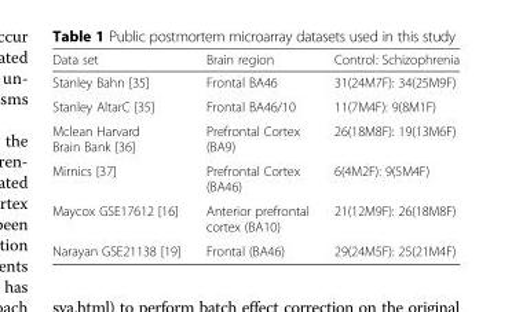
<table><thead><tr><td>Data set</td><td>Brain region</td><td>Control: Schizophrenia</td></tr></thead><tbody><tr><td>Stanley Bahn [35]</td><td>Frontal BA46</td><td>31(24M7F): 34(25M9F)</td></tr><tr><td>Stanley AltarC [35]</td><td>Frontal BA46/10</td><td>11(7M4F): 9(8M1F)</td></tr><tr><td>Mclean Harvard Brain Bank [36]</td><td>Prefrontal Cortex (BA9)</td><td>26(18M8F): 19(13M6F)</td></tr><tr><td>Mirnics [37]</td><td>Prefrontal Cortex (BA46)</td><td>6(4M2F): 9(5M4F)</td></tr><tr><td>Maycox GSE17612 [16]</td><td>Anterior prefrontal cortex (BA10)</td><td>21(12M9F): 26(18M8F)</td></tr><tr><td>Narayan GSE21138 [19]</td><td>Frontal (BA46)</td><td>29(24M5F): 25(21M4F)</td></tr></tbody></table>